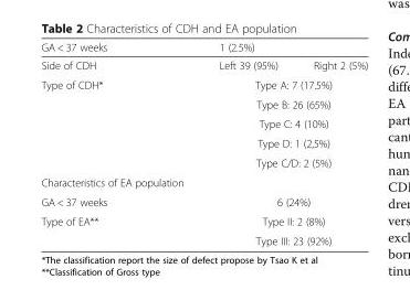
<table><thead><tr><td rowspan="2">GA &lt; 37 weeks Side of CDH</td><td colspan="2">1 (2.5%)</td></tr><tr><td>Left 39 (95%)</td><td>Right 2 (5%)</td></tr></thead><tbody><tr><td rowspan="5">Type of CDH*</td><td colspan="2">Type A: 7 (17.5%)</td></tr><tr><td colspan="2">Type B: 26 (65%)</td></tr><tr><td colspan="2">Type C: 4 (10%)</td></tr><tr><td colspan="2">Type D: 1 (2,5%)</td></tr><tr><td colspan="2">Type C/D: 2 (5%)</td></tr><tr><td colspan="3">Characteristics of EA population</td></tr><tr><td>GA &lt; 37 weeks</td><td colspan="2">6 (24%)</td></tr><tr><td rowspan="2">Type of EA**</td><td colspan="2">Type II: 2 (8%)</td></tr><tr><td colspan="2">Type III: 23 (92%)</td></tr></tbody></table>